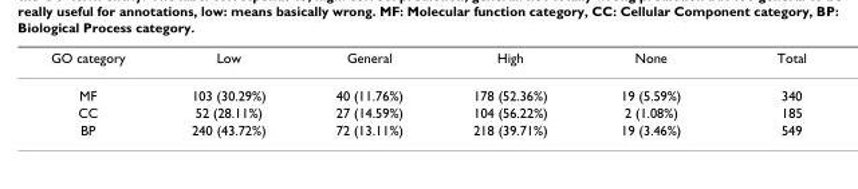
<table><thead><tr><td>GO category</td><td>Low</td><td>General</td><td>High</td><td>None</td><td>Total</td></tr></thead><tbody><tr><td>MF</td><td>103 (30.29%)</td><td>40 (11.76%)</td><td>178 (52.36%)</td><td>19 (5.59%)</td><td>340</td></tr><tr><td>CC</td><td>52 (28.11%)</td><td>27 (14.59%)</td><td>104 (56.22%)</td><td>2 (1.08%)</td><td>185</td></tr><tr><td>BP</td><td>240 (43.72%)</td><td>72 (13.11%)</td><td>218 (39.71%)</td><td>19 (3.46%)</td><td>549</td></tr></tbody></table>